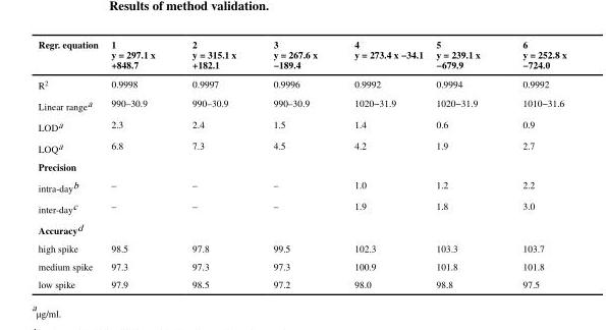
<table><thead><tr><td>Regr. equation</td><td>1 y = 297.1 x +848.7</td><td>2 y = 315.1 x +182.1</td><td>3 y = 267.6 x −189.4</td><td>4 y = 273.4 x −34.1</td><td>5 y = 239.1 x −679.9</td><td>6 y = 252.8 x −724.0</td></tr></thead><tbody><tr><td>R<sup>2</sup></td><td>0.9998</td><td>0.9997</td><td>0.9996</td><td>0.9992</td><td>0.9994</td><td>0.9992</td></tr><tr><td>Linear range<sup>a</sup></td><td>990–30.9</td><td>990–30.9</td><td>990–30.9</td><td>1020−31.9</td><td>1020−31.9</td><td>1010−31.6</td></tr><tr><td>LOD<sup>a</sup></td><td>2.3</td><td>2.4</td><td>1.5</td><td>1.4</td><td>0.6</td><td>0.9</td></tr><tr><td>LOQ<sup>a</sup></td><td>6.8</td><td>7.3</td><td>4.5</td><td>4.2</td><td>1.9</td><td>2.7</td></tr><tr><td colspan="7">Precision</td></tr><tr><td>intra-day<sup>b</sup></td><td>–</td><td>–</td><td>–</td><td>1.0</td><td>1.2</td><td>2.2</td></tr><tr><td>inter-day<sup>c</sup></td><td>–</td><td>–</td><td>–</td><td>1.9</td><td>1.8</td><td>3.0</td></tr><tr><td colspan="7">Accuracy<sup>d</sup></td></tr><tr><td>high spike</td><td>98.5</td><td>97.8</td><td>99.5</td><td>102.3</td><td>103.3</td><td>103.7</td></tr><tr><td>medium spike</td><td>97.3</td><td>97.3</td><td>97.3</td><td>100.9</td><td>101.8</td><td>101.8</td></tr><tr><td>low spike</td><td>97.9</td><td>98.5</td><td>97.2</td><td>98.0</td><td>98.8</td><td>97.5</td></tr></tbody></table>